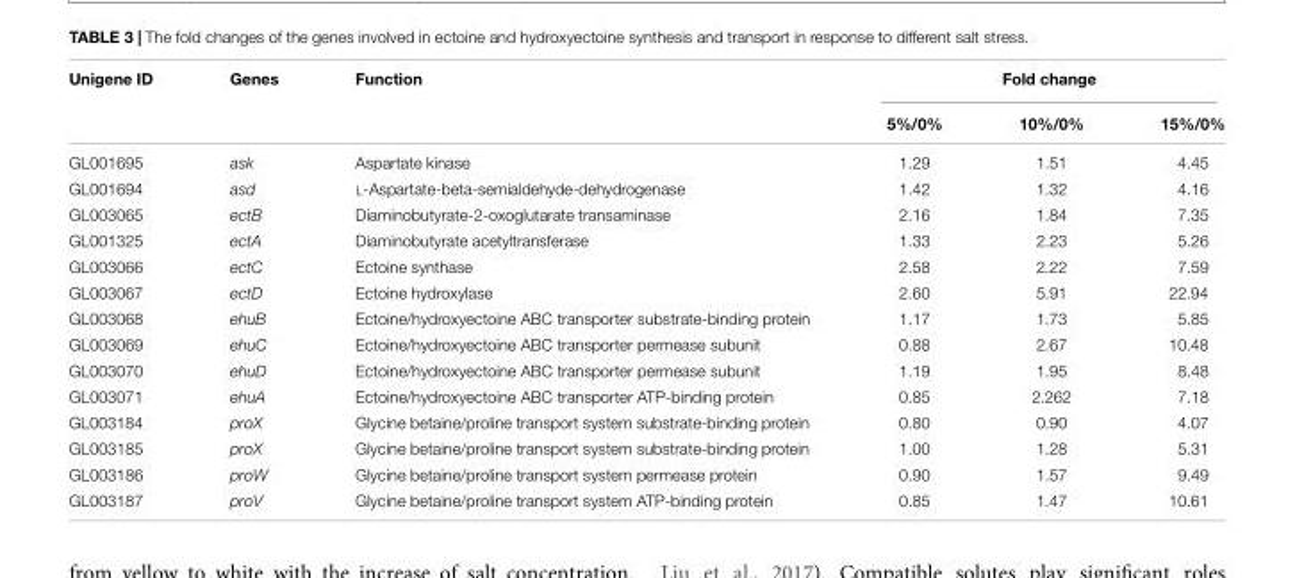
<table><thead><tr><td rowspan="2">Unigene ID</td><td rowspan="2">Genes</td><td rowspan="2">Function</td><td colspan="3">Fold change</td></tr><tr><td>5%/0%</td><td>10%/0%</td><td>15%/0%</td></tr></thead><tbody><tr><td>GL001695</td><td>ask</td><td>Aspartate kinase</td><td>1.29</td><td>1.51</td><td>4.45</td></tr><tr><td>GL001694</td><td>asd</td><td>L-Aspartate-beta-semialdehyde-dehydrogenase</td><td>1.42</td><td>1.32</td><td>4.16</td></tr><tr><td>GL003065</td><td>ectB</td><td>Diaminobutyrate-2-oxoglutarate transaminase</td><td>2.16</td><td>1.84</td><td>7.35</td></tr><tr><td>GL001325</td><td>ectA</td><td>Diaminobutyrate acetyltransferase</td><td>1.33</td><td>2.23</td><td>5.26</td></tr><tr><td>GL003066</td><td>ectC</td><td>Ectoine synthase</td><td>2.58</td><td>2.22</td><td>7.59</td></tr><tr><td>GL003067</td><td>ectD</td><td>Ectoine hydroxylase</td><td>2.60</td><td>5.91</td><td>22.94</td></tr><tr><td>GL003068</td><td>ehuB</td><td>Ectoine/hydroxyectoine ABC transporter substrate-binding protein</td><td>1.17</td><td>1.73</td><td>5.85</td></tr><tr><td>GL003069</td><td>ehuC</td><td>Ectoine/hydroxyectoine ABC transporter permease subunit</td><td>0.88</td><td>2.67</td><td>10.48</td></tr><tr><td>GL003070</td><td>ehuD</td><td>Ectoine/hydroxyectoine ABC transporter permease subunit</td><td>1.19</td><td>1.95</td><td>8.48</td></tr><tr><td>GL003071</td><td>ehuA</td><td>Ectoine/hydroxyectoine ABC transporter ATP-binding protein</td><td>0.85</td><td>2.262</td><td>7.18</td></tr><tr><td>GL003184</td><td>proX</td><td>Glycine betaine/proline transport system substrate-binding protein</td><td>0.80</td><td>0.90</td><td>4.07</td></tr><tr><td>GL003185</td><td>proX</td><td>Glycine betaine/proline transport system substrate-binding protein</td><td>1.00</td><td>1.28</td><td>5.31</td></tr><tr><td>GL003186</td><td>proW</td><td>Glycine betaine/proline transport system permease protein</td><td>0.90</td><td>1.57</td><td>9.49</td></tr><tr><td>GL003187</td><td>proV</td><td>Glycine betaine/proline transport system ATP-binding protein</td><td>0.85</td><td>1.47</td><td>10.61</td></tr></tbody></table>